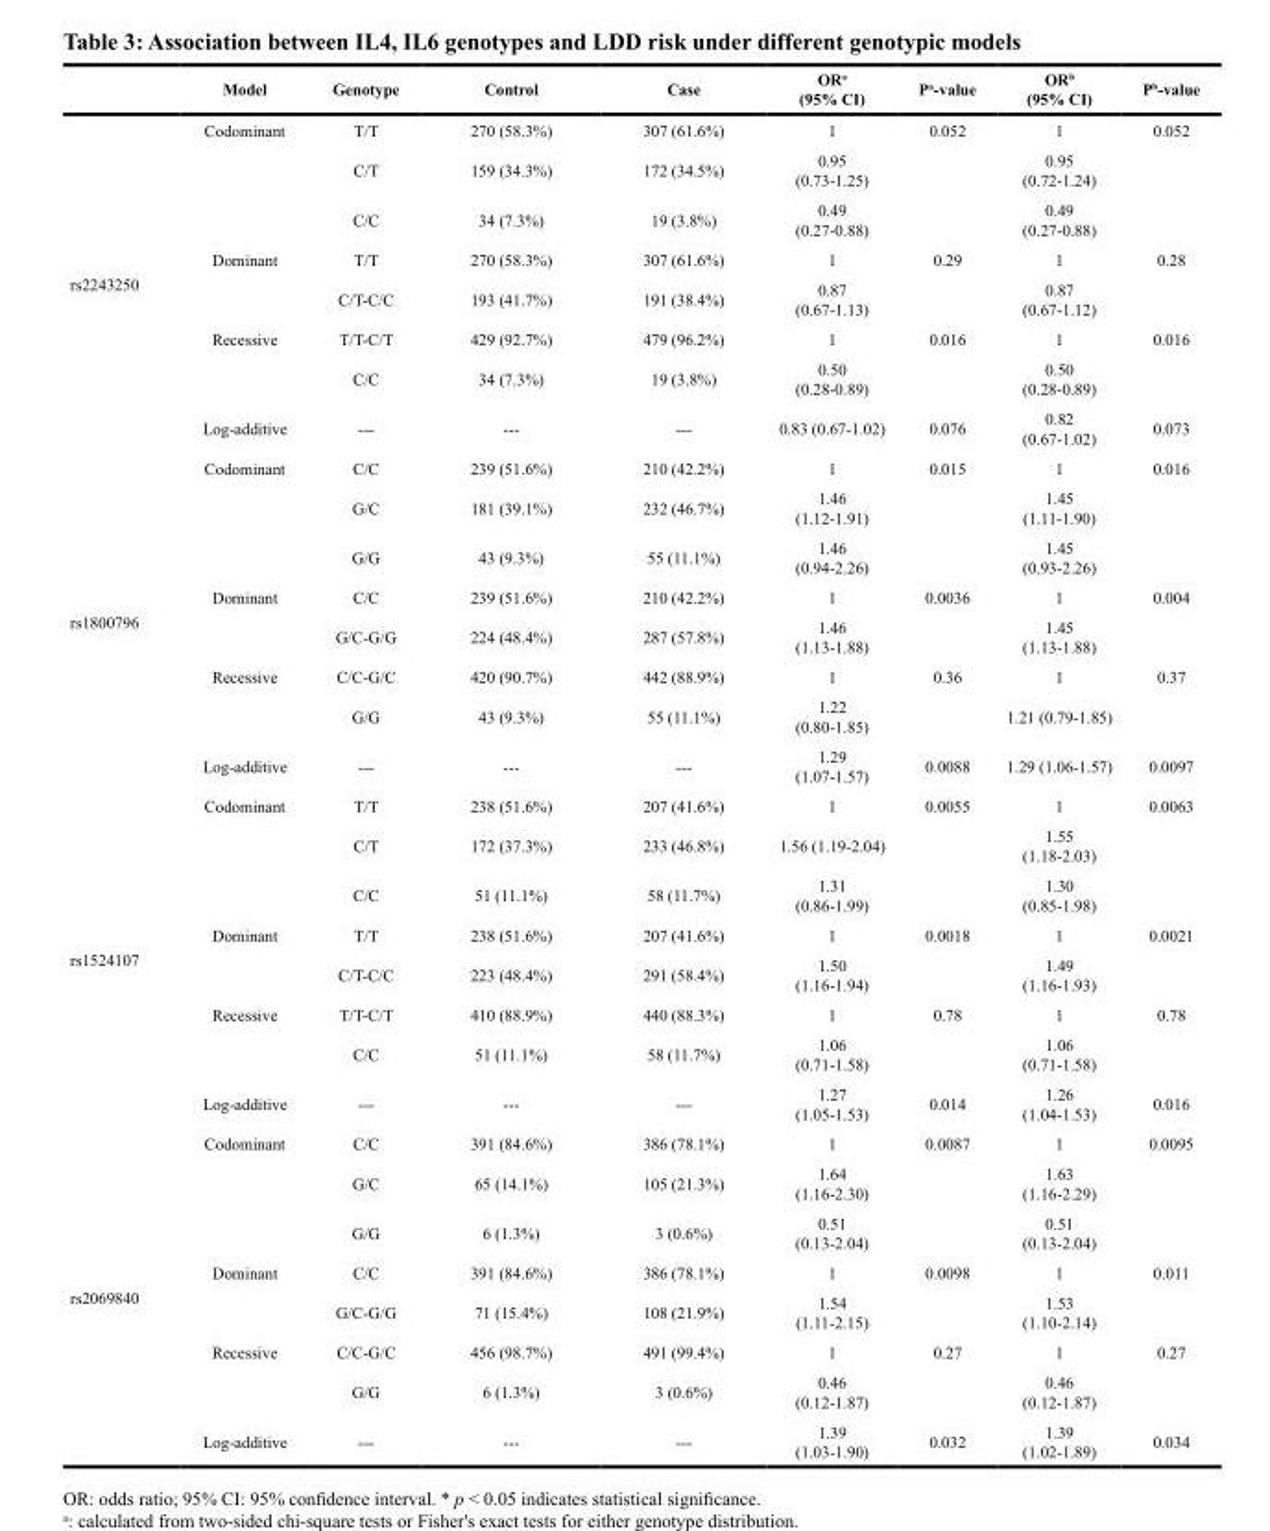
<table><thead><tr><td></td><td>Model</td><td>Genotype</td><td>Control</td><td>Case</td><td>OR<sup>a</sup> (95% CI)</td><td>P<sup>a</sup>-value</td><td>OR<sup>b</sup> (95% CI)</td><td>P<sup>b</sup>-value</td></tr></thead><tbody><tr><td rowspan="8">rs2243250</td><td>Codominant</td><td>T/T</td><td>270 (58.3%)</td><td>307 (61.6%)</td><td>1</td><td>0.052</td><td>1</td><td>0.052</td></tr><tr><td></td><td>C/T</td><td>159 (34.3%)</td><td>172 (34.5%)</td><td>0.95 (0.73-1.25)</td><td></td><td>0.95 (0.72-1.24)</td><td></td></tr><tr><td></td><td>C/C</td><td>34 (7.3%)</td><td>19 (3.8%)</td><td>0.49 (0.27-0.88)</td><td></td><td>0.49 (0.27-0.88)</td><td></td></tr><tr><td>Dominant</td><td>T/T</td><td>270 (58.3%)</td><td>307 (61.6%)</td><td>1</td><td>0.29</td><td>1</td><td>0.28</td></tr><tr><td></td><td>C/T-C/C</td><td>193 (41.7%)</td><td>191 (38.4%)</td><td>0.87 (0.67-1.13)</td><td></td><td>0.87 (0.67-1.12)</td><td></td></tr><tr><td>Recessive</td><td>T/T-C/T</td><td>429 (92.7%)</td><td>479 (96.2%)</td><td>1</td><td>0.016</td><td>1</td><td>0.016</td></tr><tr><td></td><td>C/C</td><td>34 (7.3%)</td><td>19 (3.8%)</td><td>0.50 (0.28-0.89)</td><td></td><td>0.50 (0.28-0.89)</td><td></td></tr><tr><td>Log-additive</td><td>---</td><td>---</td><td>---</td><td>0.83 (0.67-1.02)</td><td>0.076</td><td>0.82 (0.67-1.02)</td><td>0.073</td></tr><tr><td rowspan="8">rs1800796</td><td>Codominant</td><td>C/C</td><td>239 (51.6%)</td><td>210 (42.2%)</td><td>1</td><td>0.015</td><td>1</td><td>0.016</td></tr><tr><td></td><td>G/C</td><td>181 (39.1%)</td><td>232 (46.7%)</td><td>1.46 (1.12-1.91)</td><td></td><td>1.45 (1.11-1.90)</td><td></td></tr><tr><td></td><td>G/G</td><td>43 (9.3%)</td><td>55 (11.1%)</td><td>1.46 (0.94-2.26)</td><td></td><td>1.45 (0.93-2.26)</td><td></td></tr><tr><td>Dominant</td><td>C/C</td><td>239 (51.6%)</td><td>210 (42.2%)</td><td>1</td><td>0.0036</td><td>1</td><td>0.004</td></tr><tr><td></td><td>G/C-G/G</td><td>224 (48.4%)</td><td>287 (57.8%)</td><td>1.46 (1.13-1.88)</td><td></td><td>1.45 (1.13-1.88)</td><td></td></tr><tr><td>Recessive</td><td>C/C-G/C</td><td>420 (90.7%)</td><td>442 (88.9%)</td><td>1</td><td>0.36</td><td>1</td><td>0.37</td></tr><tr><td></td><td>G/G</td><td>43 (9.3%)</td><td>55 (11.1%)</td><td>1.22 (0.80-1.85)</td><td></td><td>1.21 (0.79-1.85)</td><td></td></tr><tr><td>Log-additive</td><td>---</td><td>---</td><td>---</td><td>1.29 (1.07-1.57)</td><td>0.0088</td><td>1.29 (1.06-1.57)</td><td>0.0097</td></tr><tr><td rowspan="8">rs1524107</td><td>Codominant</td><td>T/T</td><td>238 (51.6%)</td><td>207 (41.6%)</td><td>1</td><td>0.0055</td><td>1</td><td>0.0063</td></tr><tr><td></td><td>C/T</td><td>172 (37.3%)</td><td>233 (46.8%)</td><td>1.56 (1.19-2.04)</td><td></td><td>1.55 (1.18-2.03)</td><td></td></tr><tr><td></td><td>C/C</td><td>51 (11.1%)</td><td>58 (11.7%)</td><td>1.31 (0.86-1.99)</td><td></td><td>1.30 (0.85-1.98)</td><td></td></tr><tr><td>Dominant</td><td>T/T</td><td>238 (51.6%)</td><td>207 (41.6%)</td><td>1</td><td>0.0018</td><td>1</td><td>0.0021</td></tr><tr><td></td><td>C/T-C/C</td><td>223 (48.4%)</td><td>291 (58.4%)</td><td>1.50 (1.16-1.94)</td><td></td><td>1.49 (1.16-1.93)</td><td></td></tr><tr><td>Recessive</td><td>T/T-C/T</td><td>410 (88.9%)</td><td>440 (88.3%)</td><td>1</td><td>0.78</td><td>1</td><td>0.78</td></tr><tr><td></td><td>C/C</td><td>51 (11.1%)</td><td>58 (11.7%)</td><td>1.06 (0.71-1.58)</td><td></td><td>1.06 (0.71-1.58)</td><td></td></tr><tr><td>Log-additive</td><td>---</td><td>---</td><td>---</td><td>1.27 (1.05-1.53)</td><td>0.014</td><td>1.26 (1.04-1.53)</td><td>0.016</td></tr><tr><td rowspan="8">rs2069840</td><td>Codominant</td><td>C/C</td><td>391 (84.6%)</td><td>386 (78.1%)</td><td>1</td><td>0.0087</td><td>1</td><td>0.0095</td></tr><tr><td></td><td>G/C</td><td>65 (14.1%)</td><td>105 (21.3%)</td><td>1.64 (1.16-2.30)</td><td></td><td>1.63 (1.16-2.29)</td><td></td></tr><tr><td></td><td>G/G</td><td>6 (1.3%)</td><td>3 (0.6%)</td><td>0.51 (0.13-2.04)</td><td></td><td>0.51 (0.13-2.04)</td><td></td></tr><tr><td>Dominant</td><td>C/C</td><td>391 (84.6%)</td><td>386 (78.1%)</td><td>1</td><td>0.0098</td><td>1</td><td>0.011</td></tr><tr><td></td><td>G/C-G/G</td><td>71 (15.4%)</td><td>108 (21.9%)</td><td>1.54 (1.11-2.15)</td><td></td><td>1.53 (1.10-2.14)</td><td></td></tr><tr><td>Recessive</td><td>C/C-G/C</td><td>456 (98.7%)</td><td>491 (99.4%)</td><td>1</td><td>0.27</td><td>1</td><td>0.27</td></tr><tr><td></td><td>G/G</td><td>6 (1.3%)</td><td>3 (0.6%)</td><td>0.46 (0.12-1.87)</td><td></td><td>0.46 (0.12-1.87)</td><td></td></tr><tr><td>Log-additive</td><td>---</td><td>---</td><td>---</td><td>1.39 (1.03-1.90)</td><td>0.032</td><td>1.39 (1.02-1.89)</td><td>0.034</td></tr></tbody></table>